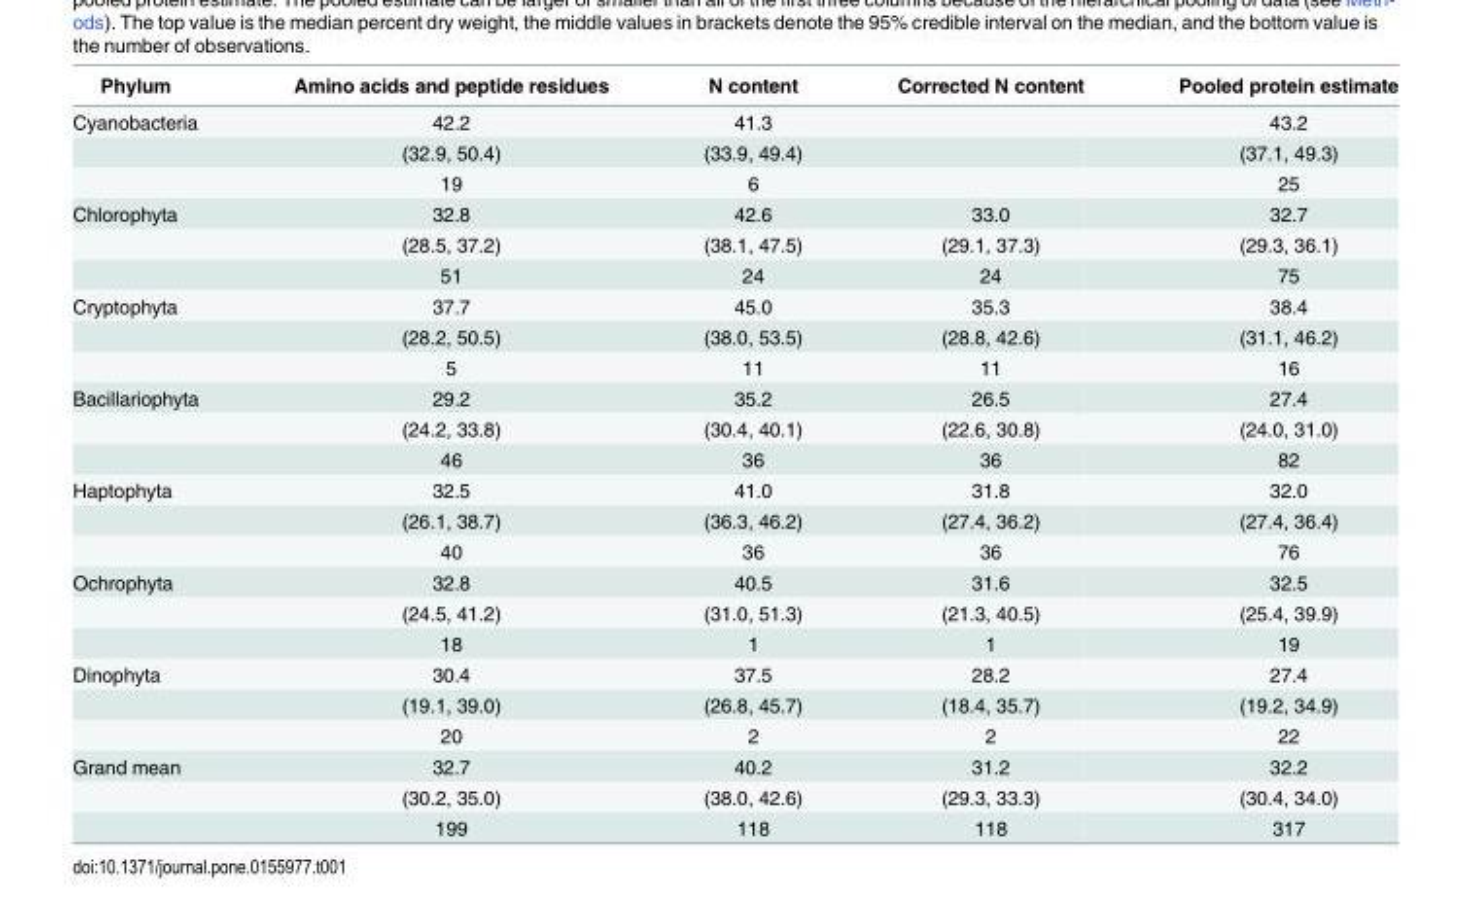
<table><thead><tr><td>Phylum</td><td>Amino acids and peptide residues</td><td>N content</td><td>Corrected N content</td><td>Pooled protein estimate</td></tr></thead><tbody><tr><td rowspan="3">Cyanobacteria</td><td>42.2</td><td>41.3</td><td></td><td>43.2</td></tr><tr><td>(32.9, 50.4)</td><td>(33.9, 49.4)</td><td></td><td>(37.1, 49.3)</td></tr><tr><td>19</td><td>6</td><td></td><td>25</td></tr><tr><td rowspan="3">Chlorophyta</td><td>32.8</td><td>42.6</td><td>33.0</td><td>32.7</td></tr><tr><td>(28.5, 37.2)</td><td>(38.1, 47.5)</td><td>(29.1, 37.3)</td><td>(29.3, 36.1)</td></tr><tr><td>51</td><td>24</td><td>24</td><td>75</td></tr><tr><td rowspan="3">Cryptophyta</td><td>37.7</td><td>45.0</td><td>35.3</td><td>38.4</td></tr><tr><td>(28.2, 50.5)</td><td>(38.0, 53.5)</td><td>(28.8, 42.6)</td><td>(31.1, 46.2)</td></tr><tr><td>5</td><td>11</td><td>11</td><td>16</td></tr><tr><td rowspan="3">Bacillariophyta</td><td>29.2</td><td>35.2</td><td>26.5</td><td>27.4</td></tr><tr><td>(24.2, 33.8)</td><td>(30.4, 40.1)</td><td>(22.6, 30.8)</td><td>(24.0, 31.0)</td></tr><tr><td>46</td><td>36</td><td>36</td><td>82</td></tr><tr><td rowspan="3">Haptophyta</td><td>32.5</td><td>41.0</td><td>31.8</td><td>32.0</td></tr><tr><td>(26.1, 38.7)</td><td>(36.3, 46.2)</td><td>(27.4, 36.2)</td><td>(27.4, 36.4)</td></tr><tr><td>40</td><td>36</td><td>36</td><td>76</td></tr><tr><td rowspan="3">Ochrophyta</td><td>32.8</td><td>40.5</td><td>31.6</td><td>32.5</td></tr><tr><td>(24.5, 41.2)</td><td>(31.0, 51.3)</td><td>(21.3, 40.5)</td><td>(25.4, 39.9)</td></tr><tr><td>18</td><td>1</td><td>1</td><td>19</td></tr><tr><td rowspan="3">Dinophyta</td><td>30.4</td><td>37.5</td><td>28.2</td><td>27.4</td></tr><tr><td>(19.1, 39.0)</td><td>(26.8, 45.7)</td><td>(18.4, 35.7)</td><td>(19.2, 34.9)</td></tr><tr><td>20</td><td>2</td><td>2</td><td>22</td></tr><tr><td rowspan="3">Grand mean</td><td>32.7</td><td>40.2</td><td>31.2</td><td>32.2</td></tr><tr><td>(30.2, 35.0)</td><td>(38.0, 42.6)</td><td>(29.3, 33.3)</td><td>(30.4, 34.0)</td></tr><tr><td>199</td><td>118</td><td>118</td><td>317</td></tr></tbody></table>